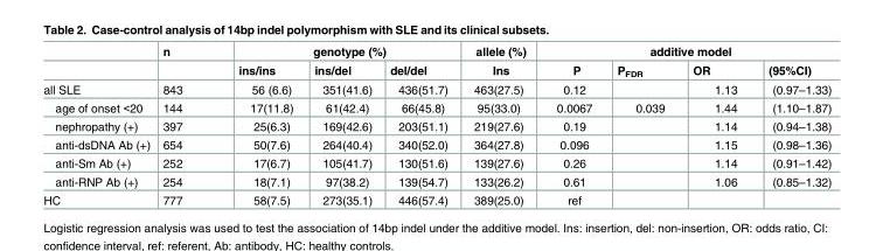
<table><thead><tr><td rowspan="2"></td><td rowspan="2">n</td><td colspan="3">genotype (%)</td><td rowspan="2">allele (%) Ins</td><td colspan="4">additive model</td></tr><tr><td>ins/ins</td><td>ins/del</td><td>del/del</td><td>P</td><td>P<sub>FDR</sub></td><td>OR</td><td>(95%CI)</td></tr></thead><tbody><tr><td>all SLE</td><td>843</td><td>56 (6.6)</td><td>351(41.6)</td><td>436(51.7)</td><td>463(27.5)</td><td>0.12</td><td></td><td>1.13</td><td>(0.97–1.33)</td></tr><tr><td>age of onset &lt;20</td><td>144</td><td>17(11.8)</td><td>61(42.4)</td><td>66(45.8)</td><td>95(33.0)</td><td>0.0067</td><td>0.039</td><td>1.44</td><td>(1.10–1.87)</td></tr><tr><td>nephropathy (+)</td><td>397</td><td>25(6.3)</td><td>169(42.6)</td><td>203(51.1)</td><td>219(27.6)</td><td>0.19</td><td></td><td>1.14</td><td>(0.94–1.38)</td></tr><tr><td>anti-dsDNA Ab (+)</td><td>654</td><td>50(7.6)</td><td>264(40.4)</td><td>340(52.0)</td><td>364(27.8)</td><td>0.096</td><td></td><td>1.15</td><td>(0.98–1.36)</td></tr><tr><td>anti-Sm Ab (+)</td><td>252</td><td>17(6.7)</td><td>105(41.7)</td><td>130(51.6)</td><td>139(27.6)</td><td>0.26</td><td></td><td>1.14</td><td>(0.91–1.42)</td></tr><tr><td>anti-RNP Ab (+)</td><td>254</td><td>18(7.1)</td><td>97(38.2)</td><td>139(54.7)</td><td>133(26.2)</td><td>0.61</td><td></td><td>1.06</td><td>(0.85–1.32)</td></tr><tr><td>HC</td><td>777</td><td>58(7.5)</td><td>273(35.1)</td><td>446(57.4)</td><td>389(25.0)</td><td>ref</td><td></td><td></td><td></td></tr></tbody></table>